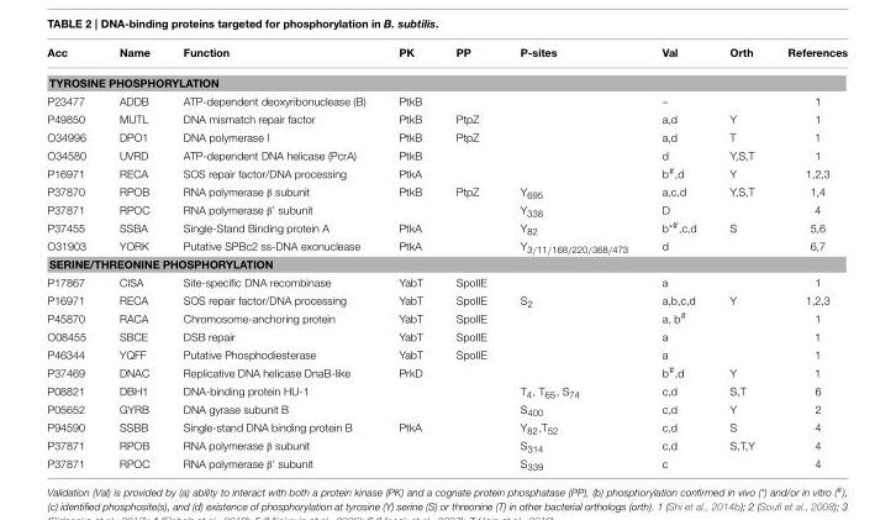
<table><thead><tr><td>Acc</td><td>Name</td><td>Function</td><td>PK</td><td>PP</td><td>P-sites</td><td>Val</td><td>Orth</td><td>References</td></tr></thead><tbody><tr><td colspan="9">TYROSINE PHOSPHORYLATION</td></tr><tr><td>P23477</td><td>ADDB</td><td>ATP-dependent deoxyribonuclease (B)</td><td>PtkB</td><td></td><td></td><td>–</td><td></td><td>1</td></tr><tr><td>P49850</td><td>MUTL</td><td>DNA mismatch repair factor</td><td>PtkB</td><td>PtpZ</td><td></td><td>a,d</td><td>Y</td><td>1</td></tr><tr><td>O34996</td><td>DPO1</td><td>DNA polymerase I</td><td>PtkB</td><td>PtpZ</td><td></td><td>a,d</td><td>T</td><td>1</td></tr><tr><td>O34580</td><td>UVRD</td><td>ATP-dependent DNA helicase (PcrA)</td><td>PtkB</td><td></td><td></td><td>d</td><td>Y,S,T</td><td>1</td></tr><tr><td>P16971</td><td>RECA</td><td>SOS repair factor/DNA processing</td><td>PtkA</td><td></td><td></td><td>b<sup>#</sup>,d</td><td>Y</td><td>1,2,3</td></tr><tr><td>P37870</td><td>RPOB</td><td>RNA polymerase β subunit</td><td>PtkB</td><td>PtpZ</td><td>Y<sub>695</sub></td><td>a,c,d</td><td>Y,S,T</td><td>1,4</td></tr><tr><td>P37871</td><td>RPOC</td><td>RNA polymerase β’ subunit</td><td></td><td></td><td>Y<sub>338</sub></td><td>D</td><td></td><td>4</td></tr><tr><td>P37455</td><td>SSBA</td><td>Single-Stand Binding protein A</td><td>PtkA</td><td></td><td>Y<sub>82</sub></td><td>b<sup>*#</sup>,c,d</td><td>S</td><td>5,6</td></tr><tr><td>O31903</td><td>YORK</td><td>Putative SPBc2 ss-DNA exonuclease</td><td>PtkA</td><td></td><td>Y3/11/168/220/368/473</td><td>d</td><td></td><td>6,7</td></tr><tr><td colspan="9">SERINE/THREONINE PHOSPHORYLATION</td></tr><tr><td>P17867</td><td>CISA</td><td>Site-specific DNA recombinase</td><td>YabT</td><td>SpoIIE</td><td></td><td>a</td><td></td><td>1</td></tr><tr><td>P16971</td><td>RECA</td><td>SOS repair factor/DNA processing</td><td>YabT</td><td>SpoIIE</td><td>S<sub>2</sub></td><td>a,b,c,d</td><td>Y</td><td>1,2,3</td></tr><tr><td>P45870</td><td>RACA</td><td>Chromosome-anchoring protein</td><td>YabT</td><td>SpoIIE</td><td></td><td>a, b<sup>#</sup></td><td></td><td>1</td></tr><tr><td>O08455</td><td>SBCE</td><td>DSB repair</td><td>YabT</td><td>SpoIIE</td><td></td><td>a</td><td></td><td>1</td></tr><tr><td>P46344</td><td>YQFF</td><td>Putative Phosphodiesterase</td><td>YabT</td><td>SpoIIE</td><td></td><td>a</td><td></td><td>1</td></tr><tr><td>P37469</td><td>DNAC</td><td>Replicative DNA helicase DnaB-like</td><td>PrkD</td><td></td><td></td><td>b<sup>#</sup>,d</td><td>Y</td><td>1</td></tr><tr><td>P08821</td><td>DBH1</td><td>DNA-binding protein HU-1</td><td></td><td></td><td>T<sub>4</sub>, T<sub>65</sub>, S<sub>74</sub></td><td>c,d</td><td>S,T</td><td>6</td></tr><tr><td>P05652</td><td>GYRB</td><td>DNA gyrase subunit B</td><td></td><td></td><td>S<sub>400</sub></td><td>c,d</td><td>Y</td><td>2</td></tr><tr><td>P94590</td><td>SSBB</td><td>Single-stand DNA binding protein B</td><td>PtkA</td><td></td><td>Y<sub>82</sub>,T<sub>52</sub></td><td>c,d</td><td>S</td><td>4</td></tr><tr><td>P37871</td><td>RPOB</td><td>RNA polymerase β subunit</td><td></td><td></td><td>S<sub>314</sub></td><td>c,d</td><td>S,T,Y</td><td>4</td></tr><tr><td>P37871</td><td>RPOC</td><td>RNA polymerase β’ subunit</td><td></td><td></td><td>S<sub>339</sub></td><td>c</td><td></td><td>4</td></tr></tbody></table>